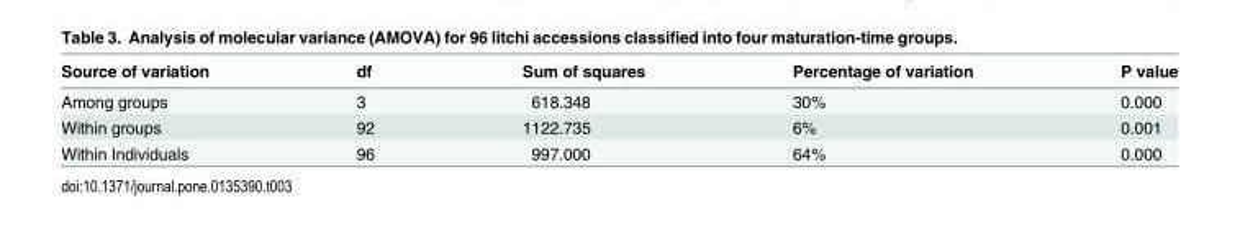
<table><thead><tr><td>Source of variation</td><td>df</td><td>Sum of squares</td><td>Percentage of variation</td><td>P value</td></tr></thead><tbody><tr><td>Among groups</td><td>3</td><td>618.348</td><td>30%</td><td>0.000</td></tr><tr><td>Within groups</td><td>92</td><td>1122.735</td><td>6%</td><td>0.001</td></tr><tr><td>Within Individuals</td><td>96</td><td>997.000</td><td>64%</td><td>0.000</td></tr></tbody></table>